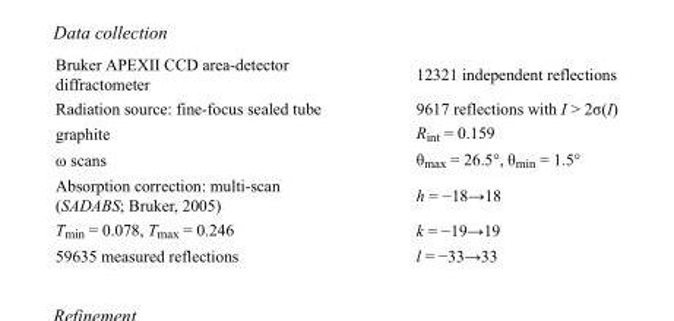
<table><tbody><tr><td>Bruker APEXII CCD area-detector diffractometer</td><td>12321 independent reflections</td></tr><tr><td>Radiation source: fine-focus sealed tube</td><td>9617 reflections with I &gt; 2σ(I)</td></tr><tr><td>graphite</td><td>R<sub>int</sub> = 0.159</td></tr><tr><td>ω scans</td><td>θ<sub>max</sub> = 26.5°, θ<sub>min</sub> = 1.5°</td></tr><tr><td>Absorption correction: multi-scan (SADABS; Bruker, 2005)</td><td>h = −18→18</td></tr><tr><td>T<sub>min</sub> = 0.078, T<sub>max</sub> = 0.246</td><td>k = −19→19</td></tr><tr><td>59635 measured reflections</td><td>l = −33→33</td></tr></tbody></table>